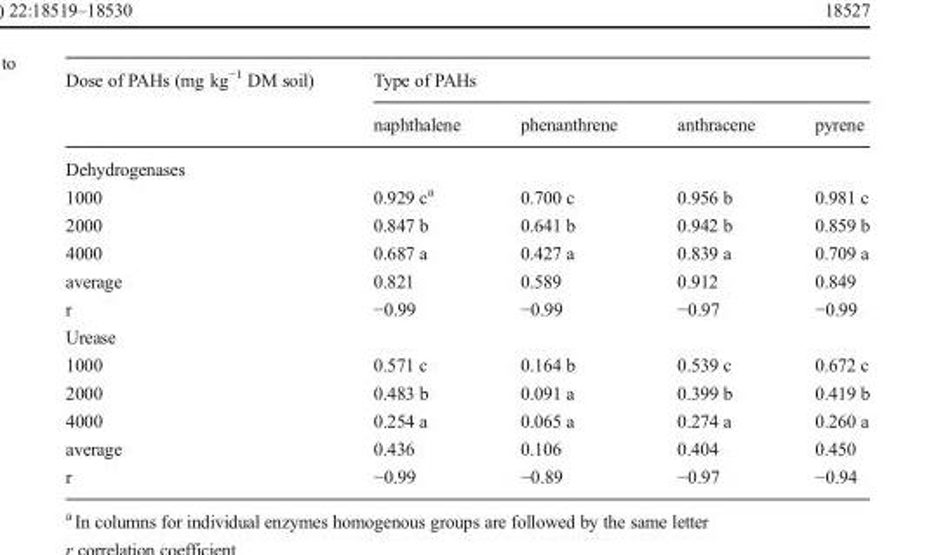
<table><thead><tr><td rowspan="2">Dose of PAHs (mg kg<sup>−1</sup> DM soil)</td><td colspan="4">Type of PAHs</td></tr><tr><td>naphthalene</td><td>phenanthrene</td><td>anthracene</td><td>pyrene</td></tr></thead><tbody><tr><td colspan="5">Dehydrogenases</td></tr><tr><td>1000</td><td>0.929 c<sup>a</sup></td><td>0.700 c</td><td>0.956 b</td><td>0.981 c</td></tr><tr><td>2000</td><td>0.847 b</td><td>0.641 b</td><td>0.942 b</td><td>0.859 b</td></tr><tr><td>4000</td><td>0.687 a</td><td>0.427 a</td><td>0.839 a</td><td>0.709 a</td></tr><tr><td>average</td><td>0.821</td><td>0.589</td><td>0.912</td><td>0.849</td></tr><tr><td>r</td><td>−0.99</td><td>−0.99</td><td>−0.97</td><td>−0.99</td></tr><tr><td colspan="5">Urease</td></tr><tr><td>1000</td><td>0.571 c</td><td>0.164 b</td><td>0.539 c</td><td>0.672 c</td></tr><tr><td>2000</td><td>0.483 b</td><td>0.091 a</td><td>0.399 b</td><td>0.419 b</td></tr><tr><td>4000</td><td>0.254 a</td><td>0.065 a</td><td>0.274 a</td><td>0.260 a</td></tr><tr><td>average</td><td>0.436</td><td>0.106</td><td>0.404</td><td>0.450</td></tr><tr><td>r</td><td>−0.99</td><td>−0.89</td><td>−0.97</td><td>−0.94</td></tr></tbody></table>